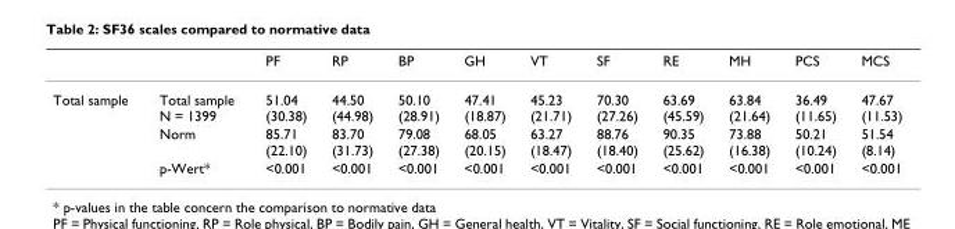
<table><thead><tr><td></td><td></td><td>PF</td><td>RP</td><td>BP</td><td>GH</td><td>VT</td><td>SF</td><td>RE</td><td>MH</td><td>PCS</td><td>MCS</td></tr></thead><tbody><tr><td rowspan="3">Total sample</td><td>Total sample N = 1399</td><td>51.04 (30.38)</td><td>44.50 (44.98)</td><td>50.10 (28.91)</td><td>47.41 (18.87)</td><td>45.23 (21.71)</td><td>70.30 (27.26)</td><td>63.69 (45.59)</td><td>63.84 (21.64)</td><td>36.49 (11.65)</td><td>47.67 (11.53)</td></tr><tr><td>Norm</td><td>85.71 (22.10)</td><td>83.70 (31.73)</td><td>79.08 (27.38)</td><td>68.05 (20.15)</td><td>63.27 (18.47)</td><td>88.76 (18.40)</td><td>90.35 (25.62)</td><td>73.88 (16.38)</td><td>50.21 (10.24)</td><td>51.54 (8.14)</td></tr><tr><td>p-Wert*</td><td>&lt;0.001</td><td>&lt;0.001</td><td>&lt;0.001</td><td>&lt;0.001</td><td>&lt;0.001</td><td>&lt;0.001</td><td>&lt;0.001</td><td>&lt;0.001</td><td>&lt;0.001</td><td>&lt;0.001</td></tr></tbody></table>